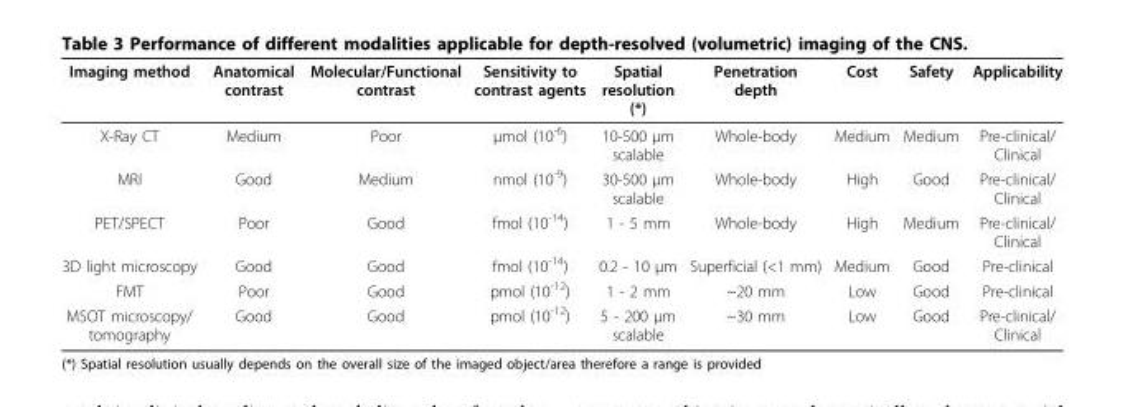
<table><thead><tr><td>Imaging method</td><td>Anatomical contrast</td><td>Molecular/Functional contrast</td><td>Sensitivity to contrast agents</td><td>Spatial resolution (*)</td><td>Penetration depth</td><td>Cost</td><td>Safety</td><td>Applicability</td></tr></thead><tbody><tr><td>X-Ray CT</td><td>Medium</td><td>Poor</td><td>μmol (10<sup>-6</sup>)</td><td>10-500 μm scalable</td><td>Whole-body</td><td>Medium</td><td>Medium</td><td>Pre-clinical/ Clinical</td></tr><tr><td>MRI</td><td>Good</td><td>Medium</td><td>nmol (10<sup>-9</sup>)</td><td>30-500 μm scalable</td><td>Whole-body</td><td>High</td><td>Good</td><td>Pre-clinical/ Clinical</td></tr><tr><td>PET/SPECT</td><td>Poor</td><td>Good</td><td>fmol (10<sup>-14</sup>)</td><td>1 - 5 mm</td><td>Whole-body</td><td>High</td><td>Medium</td><td>Pre-clinical/ Clinical</td></tr><tr><td>3D light microscopy</td><td>Good</td><td>Good</td><td>fmol (10<sup>-14</sup>)</td><td>0.2 - 10 μm</td><td>Superficial (&lt;1 mm)</td><td>Medium</td><td>Good</td><td>Pre-clinical</td></tr><tr><td>FMT</td><td>Poor</td><td>Good</td><td>pmol (10<sup>-12</sup>)</td><td>1 - 2 mm</td><td>~20 mm</td><td>Low</td><td>Good</td><td>Pre-clinical</td></tr><tr><td>MSOT microscopy/ tomography</td><td>Good</td><td>Good</td><td>pmol (10<sup>-12</sup>)</td><td>5 - 200 μm scalable</td><td>~30 mm</td><td>Low</td><td>Good</td><td>Pre-clinical/ Clinical</td></tr></tbody></table>